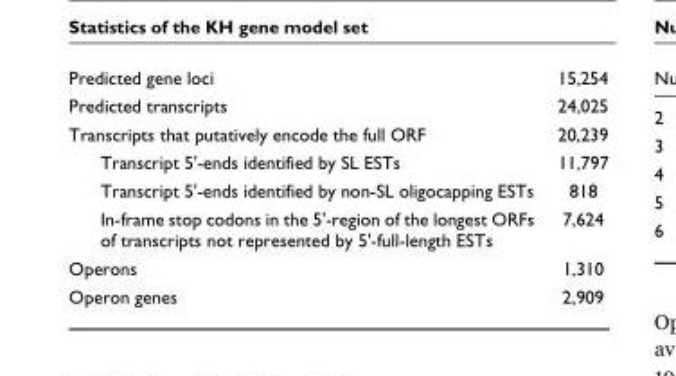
<table><tbody><tr><td>Predicted gene loci</td><td>15,254</td></tr><tr><td>Predicted transcripts</td><td>24,025</td></tr><tr><td>Transcripts that putatively encode the full ORF</td><td>20,239</td></tr><tr><td>Transcript 5&#x27;-ends identified by SL ESTs</td><td>11,797</td></tr><tr><td>Transcript 5&#x27;-ends identified by non-SL oligocapping ESTs</td><td>818</td></tr><tr><td>In-frame stop codons in the 5&#x27;-region of the longest ORFs of transcripts not represented by 5&#x27;-full-length ESTs</td><td>7,624</td></tr><tr><td>Operons</td><td>1,310</td></tr><tr><td>Operon genes</td><td>2,909</td></tr></tbody></table>